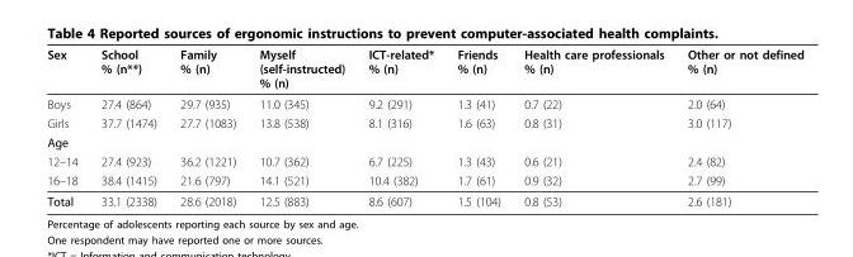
<table><thead><tr><td>Sex</td><td>School % (n**)</td><td>Family % (n)</td><td>Myself (self-instructed) % (n)</td><td>ICT-related* % (n)</td><td>Friends % (n)</td><td>Health care professionals % (n)</td><td>Other or not defined % (n)</td></tr></thead><tbody><tr><td>Boys</td><td>27.4 (864)</td><td>29.7 (935)</td><td>11.0 (345)</td><td>9.2 (291)</td><td>1.3 (41)</td><td>0.7 (22)</td><td>2.0 (64)</td></tr><tr><td>Girls</td><td>37.7 (1474)</td><td>27.7 (1083)</td><td>13.8 (538)</td><td>8.1 (316)</td><td>1.6 (63)</td><td>0.8 (31)</td><td>3.0 (117)</td></tr><tr><td colspan="8">Age</td></tr><tr><td>12–14</td><td>27.4 (923)</td><td>36.2 (1221)</td><td>10.7 (362)</td><td>6.7 (225)</td><td>1.3 (43)</td><td>0.6 (21)</td><td>2.4 (82)</td></tr><tr><td>16–18</td><td>38.4 (1415)</td><td>21.6 (797)</td><td>14.1 (521)</td><td>10.4 (382)</td><td>1.7 (61)</td><td>0.9 (32)</td><td>2.7 (99)</td></tr><tr><td>Total</td><td>33.1 (2338)</td><td>28.6 (2018)</td><td>12.5 (883)</td><td>8.6 (607)</td><td>1.5 (104)</td><td>0.8 (53)</td><td>2.6 (181)</td></tr></tbody></table>